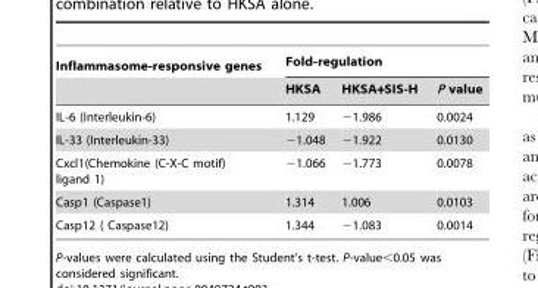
<table><thead><tr><td rowspan="2">Inflammasome-responsive genes</td><td colspan="3">Fold-regulation</td></tr><tr><td>HKSA</td><td>HKSA+SIS-H</td><td>P value</td></tr></thead><tbody><tr><td>IL-6 (Interleukin-6)</td><td>1.129</td><td>−1.986</td><td>0.0024</td></tr><tr><td>IL-33 (Interleukin-33)</td><td>−1.048</td><td>−1.922</td><td>0.0130</td></tr><tr><td>Cxcl1(Chemokine (C-X-C motif) ligand 1)</td><td>−1.066</td><td>−1.773</td><td>0.0078</td></tr><tr><td>Casp1 (Caspase1)</td><td>1.314</td><td>1.006</td><td>0.0103</td></tr><tr><td>Casp12 ( Caspase12)</td><td>1.344</td><td>−1.083</td><td>0.0014</td></tr></tbody></table>